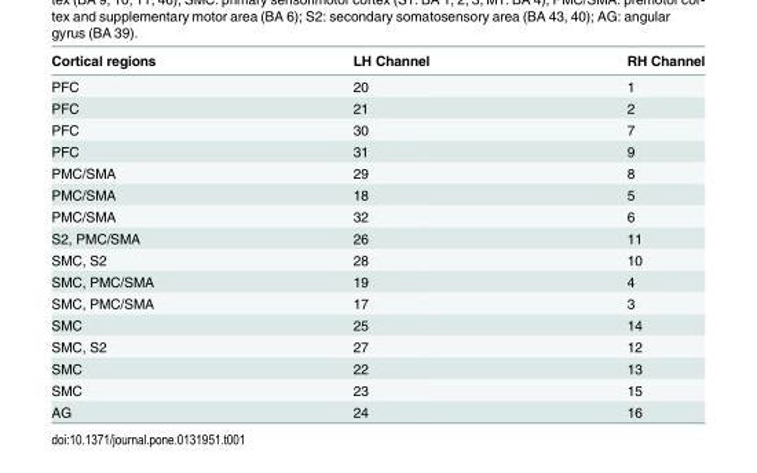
<table><thead><tr><td>Cortical regions</td><td>LH Channel</td><td>RH Channel</td></tr></thead><tbody><tr><td>PFC</td><td>20</td><td>1</td></tr><tr><td>PFC</td><td>21</td><td>2</td></tr><tr><td>PFC</td><td>30</td><td>7</td></tr><tr><td>PFC</td><td>31</td><td>9</td></tr><tr><td>PMC/SMA</td><td>29</td><td>8</td></tr><tr><td>PMC/SMA</td><td>18</td><td>5</td></tr><tr><td>PMC/SMA</td><td>32</td><td>6</td></tr><tr><td>S2, PMC/SMA</td><td>26</td><td>11</td></tr><tr><td>SMC, S2</td><td>28</td><td>10</td></tr><tr><td>SMC, PMC/SMA</td><td>19</td><td>4</td></tr><tr><td>SMC, PMC/SMA</td><td>17</td><td>3</td></tr><tr><td>SMC</td><td>25</td><td>14</td></tr><tr><td>SMC, S2</td><td>27</td><td>12</td></tr><tr><td>SMC</td><td>22</td><td>13</td></tr><tr><td>SMC</td><td>23</td><td>15</td></tr><tr><td>AG</td><td>24</td><td>16</td></tr></tbody></table>